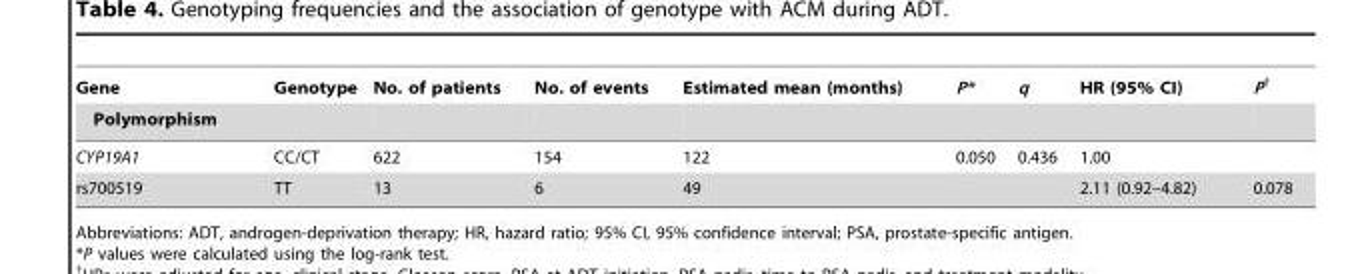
<table><thead><tr><td rowspan="2">Gene Polymorphism</td><td rowspan="2">Genotype</td><td rowspan="2">No. of patients</td><td rowspan="2">No. of events</td><td rowspan="2">Estimated mean (months)</td><td rowspan="2">P*</td><td rowspan="2">q</td><td rowspan="2">HR (95% CI)</td><td rowspan="2">P†</td></tr><tr></tr></thead><tbody><tr><td>CYP19A1</td><td>CC/CT</td><td>622</td><td>154</td><td>122</td><td>0.050</td><td>0.436</td><td>1.00</td><td></td></tr><tr><td>rs700519</td><td>TT</td><td>13</td><td>6</td><td>49</td><td></td><td></td><td>2.11 (0.92–4.82)</td><td>0.078</td></tr></tbody></table>